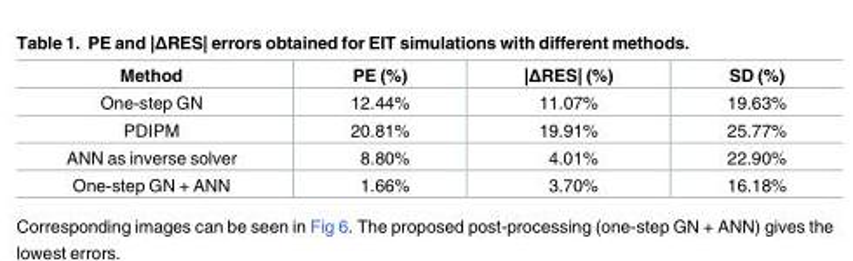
<table><thead><tr><td>Method</td><td>PE (%)</td><td>|ΔRES| (%)</td><td>SD (%)</td></tr></thead><tbody><tr><td>One-step GN</td><td>12.44%</td><td>11.07%</td><td>19.63%</td></tr><tr><td>PDIPM</td><td>20.81%</td><td>19.91%</td><td>25.77%</td></tr><tr><td>ANN as inverse solver</td><td>8.80%</td><td>4.01%</td><td>22.90%</td></tr><tr><td>One-step GN + ANN</td><td>1.66%</td><td>3.70%</td><td>16.18%</td></tr></tbody></table>